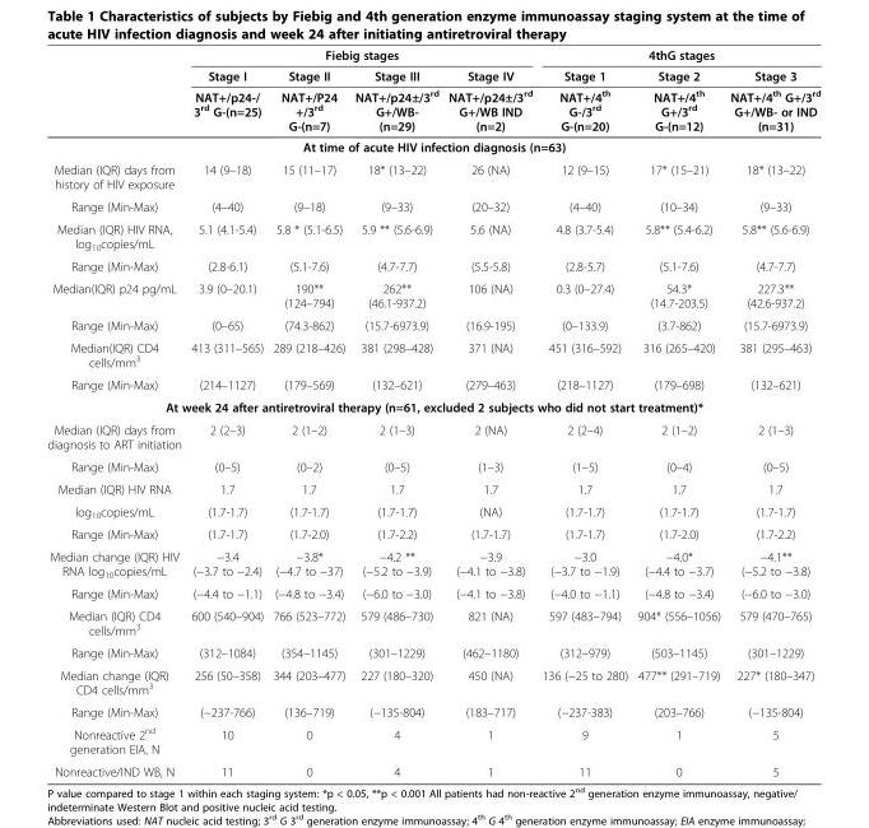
<table><thead><tr><td rowspan="3"></td><td colspan="4">Fiebig stages</td><td colspan="3">4thG stages</td></tr><tr><td rowspan="2">Stage I NAT+/p24-/ 3<sup>rd</sup> G-(n=25)</td><td rowspan="2">Stage II NAT+/P24 +/3<sup>rd</sup> G-(n=7)</td><td rowspan="2">Stage III NAT+/p24±/3<sup>rd</sup> G+/WB- (n=29)</td><td rowspan="2">Stage IV NAT+/p24±/3<sup>rd</sup> G+/WB IND (n=2)</td><td rowspan="2">Stage 1 NAT+/4<sup>th</sup> G-/3<sup>rd</sup> G-(n=20)</td><td rowspan="2">Stage 2 NAT+/4<sup>th</sup> G+/3<sup>rd</sup> G-(n=12)</td><td rowspan="2">Stage 3 NAT+/4<sup>th</sup> G+/3<sup>rd</sup> G+/WB- or IND (n=31)</td></tr><tr></tr></thead><tbody><tr><td colspan="8">At time of acute HIV infection diagnosis (n=63)</td></tr><tr><td>Median (IQR) days from history of HIV exposure</td><td>14 (9–18)</td><td>15 (11–17)</td><td>18* (13–22)</td><td>26 (NA)</td><td>12 (9–15)</td><td>17* (15–21)</td><td>18* (13–22)</td></tr><tr><td>Range (Min-Max)</td><td>(4–40)</td><td>(9–18)</td><td>(9–33)</td><td>(20–32)</td><td>(4–40)</td><td>(10–34)</td><td>(9–33)</td></tr><tr><td>Median (IQR) HIV RNA, log<sub>10</sub>copies/mL</td><td>5.1 (4.1-5.4)</td><td>5.8 * (5.1-6.5)</td><td>5.9 ** (5.6-6.9)</td><td>5.6 (NA)</td><td>4.8 (3.7-5.4)</td><td>5.8** (5.4-6.2)</td><td>5.8** (5.6-6.9)</td></tr><tr><td>Range (Min-Max)</td><td>(2.8-6.1)</td><td>(5.1-7.6)</td><td>(4.7-7.7)</td><td>(5.5-5.8)</td><td>(2.8-5.7)</td><td>(5.1-7.6)</td><td>(4.7-7.7)</td></tr><tr><td>Median(IQR) p24 pg/mL</td><td>3.9 (0–20.1)</td><td>190** (124–794)</td><td>262** (46.1-937.2)</td><td>106 (NA)</td><td>0.3 (0–27.4)</td><td>54.3* (14.7-203.5)</td><td>227.3** (42.6-937.2)</td></tr><tr><td>Range (Min-Max)</td><td>(0–65)</td><td>(74.3-862)</td><td>(15.7-6973.9)</td><td>(16.9-195)</td><td>(0–133.9)</td><td>(3.7-862)</td><td>(15.7-6973.9)</td></tr><tr><td>Median(IQR) CD4 cells/mm<sup>3</sup></td><td>413 (311–565)</td><td>289 (218–426)</td><td>381 (298–428)</td><td>371 (NA)</td><td>451 (316–592)</td><td>316 (265–420)</td><td>381 (295–463)</td></tr><tr><td>Range (Min-Max)</td><td>(214–1127)</td><td>(179–569)</td><td>(132–621)</td><td>(279–463)</td><td>(218–1127)</td><td>(179–698)</td><td>(132–621)</td></tr><tr><td colspan="8">At week 24 after antiretroviral therapy (n=61, excluded 2 subjects who did not start treatment)*</td></tr><tr><td>Median (IQR) days from diagnosis to ART initiation</td><td>2 (2–3)</td><td>2 (1–2)</td><td>2 (1–3)</td><td>2 (NA)</td><td>2 (2–4)</td><td>2 (1–2)</td><td>2 (1–3)</td></tr><tr><td>Range (Min-Max)</td><td>(0–5)</td><td>(0–2)</td><td>(0–5)</td><td>(1–3)</td><td>(1–5)</td><td>(0–4)</td><td>(0–5)</td></tr><tr><td>Median (IQR) HIV RNA</td><td>1.7</td><td>1.7</td><td>1.7</td><td>1.7</td><td>1.7</td><td>1.7</td><td>1.7</td></tr><tr><td>log<sub>10</sub>copies/mL</td><td>(1.7-1.7)</td><td>(1.7-1.7)</td><td>(1.7-1.7)</td><td>(NA)</td><td>(1.7-1.7)</td><td>(1.7-1.7)</td><td>(1.7-1.7)</td></tr><tr><td>Range (Min-Max)</td><td>(1.7-1.7)</td><td>(1.7-2.0)</td><td>(1.7-2.2)</td><td>(1.7-1.7)</td><td>(1.7-1.7)</td><td>(1.7-2.0)</td><td>(1.7-2.2)</td></tr><tr><td>Median change (IQR) HIV RNA log<sub>10</sub>copies/mL</td><td>−3.4 (−3.7 to −2.4)</td><td>−3.8* (−4.7 to −37)</td><td>−4.2 ** (−5.2 to −3.9)</td><td>−3.9 (−4.1 to −3.8)</td><td>−3.0 (−3.7 to −1.9)</td><td>−4.0* (−4.4 to −3.7)</td><td>−4.1** (−5.2 to −3.8)</td></tr><tr><td>Range (Min-Max)</td><td>(−4.4 to −1.1)</td><td>(−4.8 to −3.4)</td><td>(−6.0 to −3.0)</td><td>(−4.1 to −3.8)</td><td>(−4.0 to −1.1)</td><td>(−4.8 to −3.4)</td><td>(−6.0 to −3.0)</td></tr><tr><td>Median (IQR) CD4 cells/mm<sup>3</sup></td><td>600 (540–904)</td><td>766 (523–772)</td><td>579 (486–730)</td><td>821 (NA)</td><td>597 (483–794)</td><td>904* (556–1056)</td><td>579 (470–765)</td></tr><tr><td>Range (Min-Max)</td><td>(312–1084)</td><td>(354–1145)</td><td>(301–1229)</td><td>(462–1180)</td><td>(312–979)</td><td>(503–1145)</td><td>(301–1229)</td></tr><tr><td>Median change (IQR) CD4 cells/mm<sup>3</sup></td><td>256 (50–358)</td><td>344 (203–477)</td><td>227 (180–320)</td><td>450 (NA)</td><td>136 (−25 to 280)</td><td>477** (291–719)</td><td>227* (180–347)</td></tr><tr><td>Range (Min-Max)</td><td>(−237-766)</td><td>(136–719)</td><td>(−135-804)</td><td>(183–717)</td><td>(−237-383)</td><td>(203–766)</td><td>(−135-804)</td></tr><tr><td>Nonreactive 2<sup>nd</sup> generation EIA, N</td><td>10</td><td>0</td><td>4</td><td>1</td><td>9</td><td>1</td><td>5</td></tr><tr><td>Nonreactive/IND WB, N</td><td>11</td><td>0</td><td>4</td><td>1</td><td>11</td><td>0</td><td>5</td></tr></tbody></table>